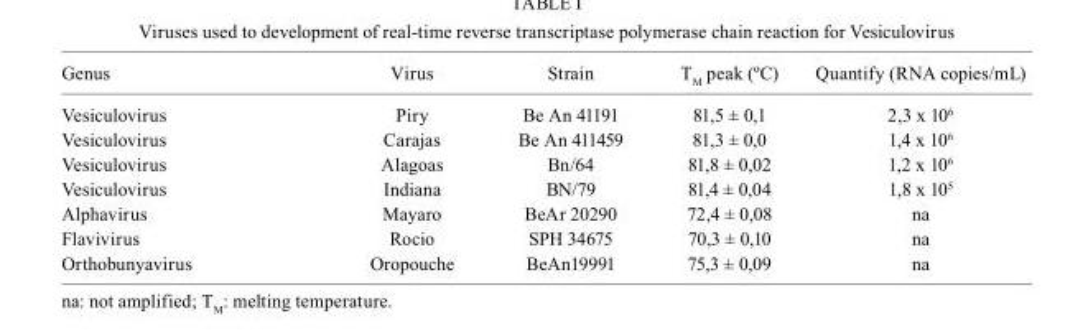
<table><thead><tr><td>Genus</td><td>Virus</td><td>Strain</td><td>T<sub>M</sub> peak (ºC)</td><td>Quantify (RNA copies/mL)</td></tr></thead><tbody><tr><td>Vesiculovirus</td><td>Piry</td><td>Be An 41191</td><td>81,5 ± 0,1</td><td>2,3 x 10<sup>6</sup></td></tr><tr><td>Vesiculovirus</td><td>Carajas</td><td>Be An 411459</td><td>81,3 ± 0,0</td><td>1,4 x 10<sup>6</sup></td></tr><tr><td>Vesiculovirus</td><td>Alagoas</td><td>Bn/64</td><td>81,8 ± 0,02</td><td>1,2 x 10<sup>6</sup></td></tr><tr><td>Vesiculovirus</td><td>Indiana</td><td>BN/79</td><td>81,4 ± 0,04</td><td>1,8 x 10<sup>5</sup></td></tr><tr><td>Alphavirus</td><td>Mayaro</td><td>BeAr 20290</td><td>72,4 ± 0,08</td><td>na</td></tr><tr><td>Flavivirus</td><td>Rocio</td><td>SPH 34675</td><td>70,3 ± 0,10</td><td>na</td></tr><tr><td>Orthobunyavirus</td><td>Oropouche</td><td>BeAn19991</td><td>75,3 ± 0,09</td><td>na</td></tr></tbody></table>